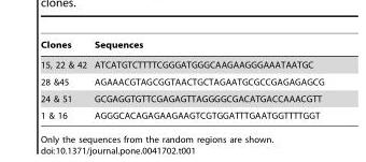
<table><thead><tr><td>Clones</td><td>Sequences</td></tr></thead><tbody><tr><td>15, 22 &amp; 42</td><td>ATCATGTCTTTTCGGGATGGGCAAGAAGGGAAATAATGC</td></tr><tr><td>28 &amp;45</td><td>AGAAACGTAGCGGTAACTGCTAGAATGCGCCGAGAGAGCG</td></tr><tr><td>24 &amp; 51</td><td>GCGAGGTGTTCGAGAGTTAGGGGCGACATGACCAAACGTT</td></tr><tr><td>1 &amp; 16</td><td>AGGGCACAGAGAAGAAGTCGTGGATTTGAATGGTTTTGGT</td></tr></tbody></table>